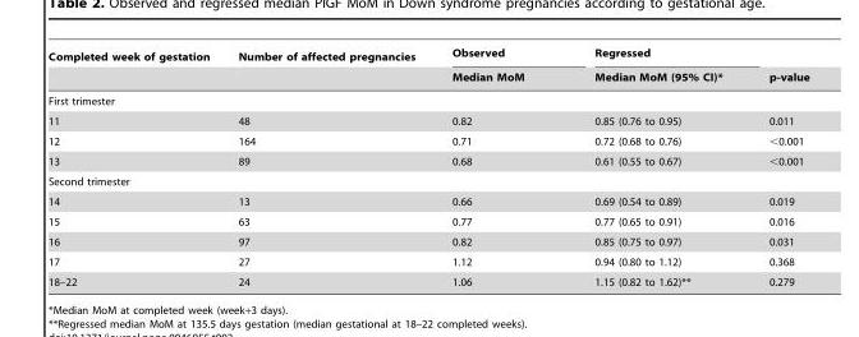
<table><thead><tr><td rowspan="2">Completed week of gestation</td><td rowspan="2">Number of affected pregnancies</td><td rowspan="2">Observed Median MoM</td><td rowspan="2">Regressed Median MoM (95% CI)*</td><td rowspan="2">p-value</td></tr><tr></tr></thead><tbody><tr><td colspan="5">First trimester</td></tr><tr><td>11</td><td>48</td><td>0.82</td><td>0.85 (0.76 to 0.95)</td><td>0.011</td></tr><tr><td>12</td><td>164</td><td>0.71</td><td>0.72 (0.68 to 0.76)</td><td>&lt;0.001</td></tr><tr><td>13</td><td>89</td><td>0.68</td><td>0.61 (0.55 to 0.67)</td><td>&lt;0.001</td></tr><tr><td colspan="5">Second trimester</td></tr><tr><td>14</td><td>13</td><td>0.66</td><td>0.69 (0.54 to 0.89)</td><td>0.019</td></tr><tr><td>15</td><td>63</td><td>0.77</td><td>0.77 (0.65 to 0.91)</td><td>0.016</td></tr><tr><td>16</td><td>97</td><td>0.82</td><td>0.85 (0.75 to 0.97)</td><td>0.031</td></tr><tr><td>17</td><td>27</td><td>1.12</td><td>0.94 (0.80 to 1.12)</td><td>0.368</td></tr><tr><td>18–22</td><td>24</td><td>1.06</td><td>1.15 (0.82 to 1.62)**</td><td>0.279</td></tr></tbody></table>